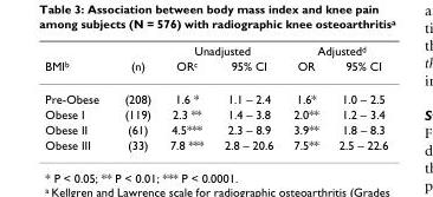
<table><thead><tr><td rowspan="2">BMI<sup>b</sup></td><td rowspan="2">(n)</td><td colspan="2">Unadjusted</td><td colspan="2">Adjusted<sup>d</sup></td></tr><tr><td>OR<sup>c</sup></td><td>95% CI</td><td>OR</td><td>95% CI</td></tr></thead><tbody><tr><td>Pre-Obese</td><td>(208)</td><td>1.6 *</td><td>1.1 – 2.4</td><td>1.6*</td><td>1.0 – 2.5</td></tr><tr><td>Obese I</td><td>(119)</td><td>2.3 **</td><td>1.4 – 3.8</td><td>2.0**</td><td>1.2 – 3.4</td></tr><tr><td>Obese II</td><td>(61)</td><td>4.5***</td><td>2.3 – 8.9</td><td>3.9**</td><td>1.8 – 8.3</td></tr><tr><td>Obese III</td><td>(33)</td><td>7.8 ***</td><td>2.8 – 20.6</td><td>7.5**</td><td>2.5 – 22.6</td></tr></tbody></table>